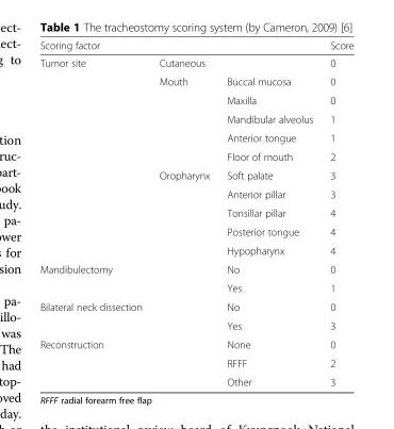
<table><thead><tr><td colspan="3">Scoring factor</td><td rowspan="2">Score 0</td></tr><tr><td>Tumor site</td><td>Cutaneous</td><td></td></tr></thead><tbody><tr><td></td><td>Mouth</td><td>Buccal mucosa</td><td>0</td></tr><tr><td></td><td></td><td>Maxilla</td><td>0</td></tr><tr><td></td><td></td><td>Mandibular alveolus</td><td>1</td></tr><tr><td></td><td></td><td>Anterior tongue</td><td>1</td></tr><tr><td></td><td></td><td>Floor of mouth</td><td>2</td></tr><tr><td></td><td>Oropharynx</td><td>Soft palate</td><td>3</td></tr><tr><td></td><td></td><td>Anterior pillar</td><td>3</td></tr><tr><td></td><td></td><td>Tonsillar pillar</td><td>4</td></tr><tr><td></td><td></td><td>Posterior tongue</td><td>4</td></tr><tr><td></td><td></td><td>Hypopharynx</td><td>4</td></tr><tr><td rowspan="2">Mandibulectomy</td><td></td><td>No</td><td>0</td></tr><tr><td></td><td>Yes</td><td>1</td></tr><tr><td rowspan="2">Bilateral neck dissection</td><td></td><td>No</td><td>0</td></tr><tr><td></td><td>Yes</td><td>3</td></tr><tr><td rowspan="3">Reconstruction</td><td></td><td>None</td><td>0</td></tr><tr><td></td><td>RFFF</td><td>2</td></tr><tr><td></td><td>Other</td><td>3</td></tr></tbody></table>